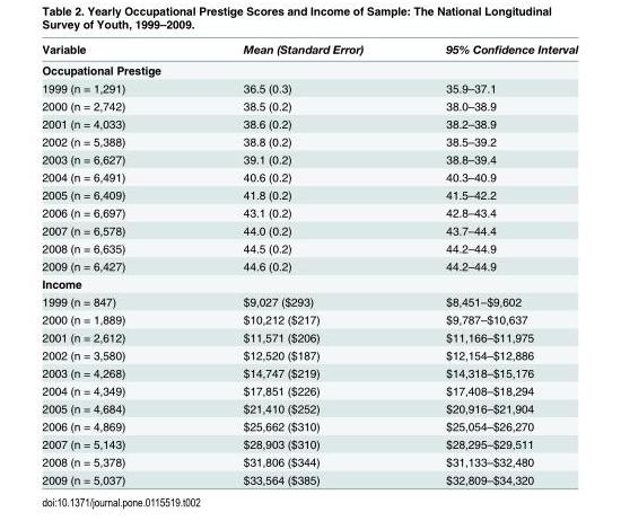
<table><thead><tr><td>Variable</td><td>Mean (Standard Error)</td><td>95% Confidence Interval</td></tr></thead><tbody><tr><td colspan="3">Occupational Prestige</td></tr><tr><td>1999 (n = 1,291)</td><td>36.5 (0.3)</td><td>35.9–37.1</td></tr><tr><td>2000 (n = 2,742)</td><td>38.5 (0.2)</td><td>38.0–38.9</td></tr><tr><td>2001 (n = 4,033)</td><td>38.6 (0.2)</td><td>38.2–38.9</td></tr><tr><td>2002 (n = 5,388)</td><td>38.8 (0.2)</td><td>38.5–39.2</td></tr><tr><td>2003 (n = 6,627)</td><td>39.1 (0.2)</td><td>38.8–39.4</td></tr><tr><td>2004 (n = 6,491)</td><td>40.6 (0.2)</td><td>40.3–40.9</td></tr><tr><td>2005 (n = 6,409)</td><td>41.8 (0.2)</td><td>41.5–42.2</td></tr><tr><td>2006 (n = 6,697)</td><td>43.1 (0.2)</td><td>42.8–43.4</td></tr><tr><td>2007 (n = 6,578)</td><td>44.0 (0.2)</td><td>43.7–44.4</td></tr><tr><td>2008 (n = 6,635)</td><td>44.5 (0.2)</td><td>44.2–44.9</td></tr><tr><td>2009 (n = 6,427)</td><td>44.6 (0.2)</td><td>44.2–44.9</td></tr><tr><td colspan="3">Income</td></tr><tr><td>1999 (n = 847)</td><td>$9,027 ($293)</td><td>$8,451–$9,602</td></tr><tr><td>2000 (n = 1,889)</td><td>$10,212 ($217)</td><td>$9,787–$10,637</td></tr><tr><td>2001 (n = 2,612)</td><td>$11,571 ($206)</td><td>$11,166–$11,975</td></tr><tr><td>2002 (n = 3,580)</td><td>$12,520 ($187)</td><td>$12,154–$12,886</td></tr><tr><td>2003 (n = 4,268)</td><td>$14,747 ($219)</td><td>$14,318–$15,176</td></tr><tr><td>2004 (n = 4,349)</td><td>$17,851 ($226)</td><td>$17,408–$18,294</td></tr><tr><td>2005 (n = 4,684)</td><td>$21,410 ($252)</td><td>$20,916–$21,904</td></tr><tr><td>2006 (n = 4,869)</td><td>$25,662 ($310)</td><td>$25,054–$26,270</td></tr><tr><td>2007 (n = 5,143)</td><td>$28,903 ($310)</td><td>$28,295–$29,511</td></tr><tr><td>2008 (n = 5,378)</td><td>$31,806 ($344)</td><td>$31,133–$32,480</td></tr><tr><td>2009 (n = 5,037)</td><td>$33,564 ($385)</td><td>$32,809–$34,320</td></tr></tbody></table>